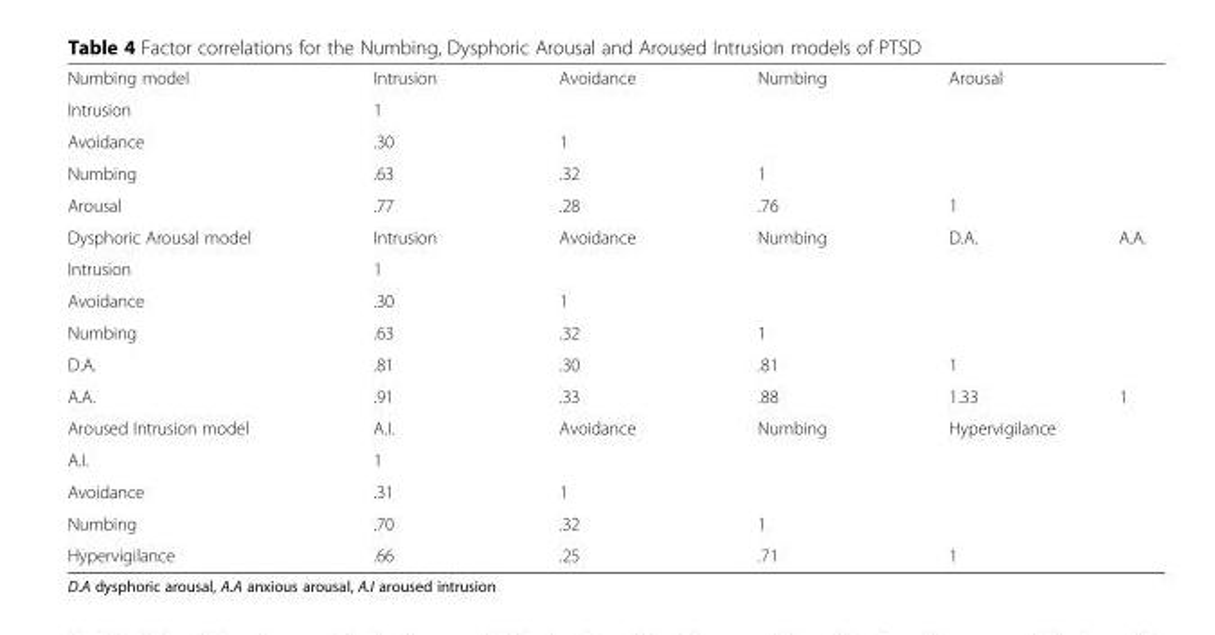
<table><tbody><tr><td>Numbing model</td><td>Intrusion</td><td>Avoidance</td><td>Numbing</td><td colspan="2">Arousal</td></tr><tr><td>Intrusion</td><td>1</td><td></td><td></td><td colspan="2"></td></tr><tr><td>Avoidance</td><td>.30</td><td>1</td><td></td><td colspan="2"></td></tr><tr><td>Numbing</td><td>.63</td><td>.32</td><td>1</td><td colspan="2"></td></tr><tr><td>Arousal</td><td>.77</td><td>.28</td><td>.76</td><td colspan="2">1</td></tr><tr><td>Dysphoric Arousal model</td><td>Intrusion</td><td>Avoidance</td><td>Numbing</td><td>D.A.</td><td>A.A.</td></tr><tr><td>Intrusion</td><td>1</td><td></td><td></td><td></td><td></td></tr><tr><td>Avoidance</td><td>.30</td><td>1</td><td></td><td></td><td></td></tr><tr><td>Numbing</td><td>.63</td><td>.32</td><td>1</td><td></td><td></td></tr><tr><td>D.A.</td><td>.81</td><td>.30</td><td>.81</td><td>1</td><td></td></tr><tr><td>A.A.</td><td>.91</td><td>.33</td><td>.88</td><td>1.33</td><td>1</td></tr><tr><td>Aroused Intrusion model</td><td>A.I.</td><td>Avoidance</td><td>Numbing</td><td colspan="2">Hypervigilance</td></tr><tr><td>A.I.</td><td>1</td><td></td><td></td><td colspan="2"></td></tr><tr><td>Avoidance</td><td>.31</td><td>1</td><td></td><td colspan="2"></td></tr><tr><td>Numbing</td><td>.70</td><td>.32</td><td>1</td><td colspan="2"></td></tr><tr><td>Hypervigilance</td><td>.66</td><td>.25</td><td>.71</td><td colspan="2">1</td></tr></tbody></table>